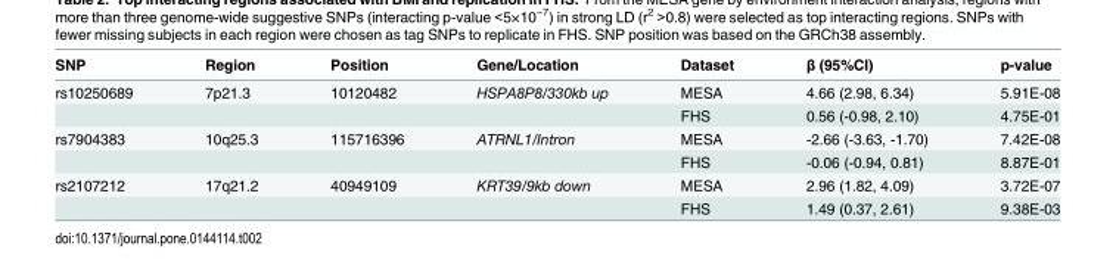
<table><thead><tr><td>SNP</td><td>Region</td><td>Position</td><td>Gene/Location</td><td>Dataset</td><td>β (95%CI)</td><td>p-value</td></tr></thead><tbody><tr><td rowspan="2">rs10250689</td><td>7p21.3</td><td>10120482</td><td>HSPA8P8/330kb up</td><td>MESA</td><td>4.66 (2.98, 6.34)</td><td>5.91E-08</td></tr><tr><td></td><td></td><td></td><td>FHS</td><td>0.56 (-0.98, 2.10)</td><td>4.75E-01</td></tr><tr><td rowspan="2">rs7904383</td><td>10q25.3</td><td>115716396</td><td>ATRNL1/Intron</td><td>MESA</td><td>-2.66 (-3.63, -1.70)</td><td>7.42E-08</td></tr><tr><td></td><td></td><td></td><td>FHS</td><td>-0.06 (-0.94, 0.81)</td><td>8.87E-01</td></tr><tr><td rowspan="2">rs2107212</td><td>17q21.2</td><td>40949109</td><td>KRT39/9kb down</td><td>MESA</td><td>2.96 (1.82, 4.09)</td><td>3.72E-07</td></tr><tr><td></td><td></td><td></td><td>FHS</td><td>1.49 (0.37, 2.61)</td><td>9.38E-03</td></tr></tbody></table>